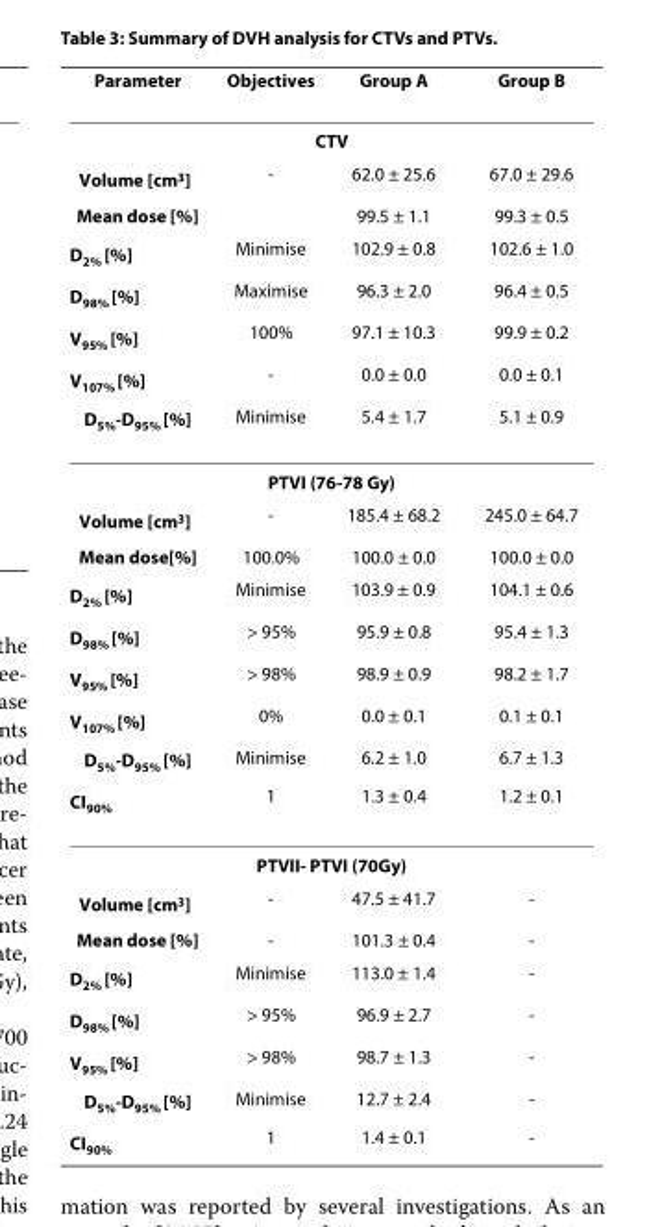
<table><thead><tr><td>Parameter</td><td>Objectives</td><td>Group A</td><td>Group B</td></tr></thead><tbody><tr><td colspan="4">CTV</td></tr><tr><td>Volume [cm<sup>3</sup>]</td><td>-</td><td>62.0 ± 25.6</td><td>67.0 ± 29.6</td></tr><tr><td>Mean dose [%]</td><td></td><td>99.5 ± 1.1</td><td>99.3 ± 0.5</td></tr><tr><td>D<sub>2%</sub> [%]</td><td>Minimise</td><td>102.9 ± 0.8</td><td>102.6 ± 1.0</td></tr><tr><td>D<sub>98%</sub> [%]</td><td>Maximise</td><td>96.3 ± 2.0</td><td>96.4 ± 0.5</td></tr><tr><td>V<sub>95%</sub> [%]</td><td>100%</td><td>97.1 ± 10.3</td><td>99.9 ± 0.2</td></tr><tr><td>V<sub>107%</sub> [%]</td><td>-</td><td>0.0 ± 0.0</td><td>0.0 ± 0.1</td></tr><tr><td>D<sub>5%</sub>-D<sub>95%</sub> [%]</td><td>Minimise</td><td>5.4 ± 1.7</td><td>5.1 ± 0.9</td></tr><tr><td colspan="4">PTVI (76-78 Gy)</td></tr><tr><td>Volume [cm<sup>3</sup>]</td><td>-</td><td>185.4 ± 68.2</td><td>245.0 ± 64.7</td></tr><tr><td>Mean dose[%]</td><td>100.0%</td><td>100.0 ± 0.0</td><td>100.0 ± 0.0</td></tr><tr><td>D<sub>2%</sub> [%]</td><td>Minimise</td><td>103.9 ± 0.9</td><td>104.1 ± 0.6</td></tr><tr><td>D<sub>98%</sub> [%]</td><td>&gt; 95%</td><td>95.9 ± 0.8</td><td>95.4 ± 1.3</td></tr><tr><td>V<sub>95%</sub> [%]</td><td>&gt; 98%</td><td>98.9 ± 0.9</td><td>98.2 ± 1.7</td></tr><tr><td>V<sub>107%</sub> [%]</td><td>0%</td><td>0.0 ± 0.1</td><td>0.1 ± 0.1</td></tr><tr><td>D<sub>5%</sub>-D<sub>95%</sub> [%]</td><td>Minimise</td><td>6.2 ± 1.0</td><td>6.7 ± 1.3</td></tr><tr><td>CI<sub>90%</sub></td><td>1</td><td>1.3 ± 0.4</td><td>1.2 ± 0.1</td></tr><tr><td colspan="4">PTVII- PTVI (70Gy)</td></tr><tr><td>Volume [cm<sup>3</sup>]</td><td>-</td><td>47.5 ± 41.7</td><td>-</td></tr><tr><td>Mean dose [%]</td><td>-</td><td>101.3 ± 0.4</td><td>-</td></tr><tr><td>D<sub>2%</sub> [%]</td><td>Minimise</td><td>113.0 ± 1.4</td><td>-</td></tr><tr><td>D<sub>98%</sub> [%]</td><td>&gt; 95%</td><td>96.9 ± 2.7</td><td>-</td></tr><tr><td>V<sub>95%</sub> [%]</td><td>&gt; 98%</td><td>98.7 ± 1.3</td><td>-</td></tr><tr><td>D<sub>5%</sub>-D<sub>95%</sub> [%]</td><td>Minimise</td><td>12.7 ± 2.4</td><td>-</td></tr><tr><td>CI<sub>90%</sub></td><td>1</td><td>1.4 ± 0.1</td><td>-</td></tr></tbody></table>